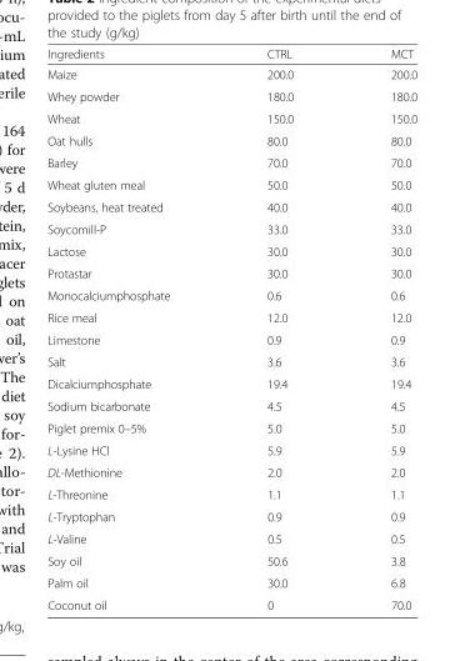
<table><thead><tr><td>Ingredients</td><td>CTRL</td><td>MCT</td></tr></thead><tbody><tr><td>Maize</td><td>200.0</td><td>200.0</td></tr><tr><td>Whey powder</td><td>180.0</td><td>180.0</td></tr><tr><td>Wheat</td><td>150.0</td><td>150.0</td></tr><tr><td>Oat hulls</td><td>80.0</td><td>80.0</td></tr><tr><td>Barley</td><td>70.0</td><td>70.0</td></tr><tr><td>Wheat gluten meal</td><td>50.0</td><td>50.0</td></tr><tr><td>Soybeans, heat treated</td><td>40.0</td><td>40.0</td></tr><tr><td>Soycomill-P</td><td>33.0</td><td>33.0</td></tr><tr><td>Lactose</td><td>30.0</td><td>30.0</td></tr><tr><td>Protastar</td><td>30.0</td><td>30.0</td></tr><tr><td>Monocalciumphosphate</td><td>0.6</td><td>0.6</td></tr><tr><td>Rice meal</td><td>12.0</td><td>12.0</td></tr><tr><td>Limestone</td><td>0.9</td><td>0.9</td></tr><tr><td>Salt</td><td>3.6</td><td>3.6</td></tr><tr><td>Dicalciumphosphate</td><td>19.4</td><td>19.4</td></tr><tr><td>Sodium bicarbonate</td><td>4.5</td><td>4.5</td></tr><tr><td>Piglet premix 0–5%</td><td>5.0</td><td>5.0</td></tr><tr><td>L-Lysine HCl</td><td>5.9</td><td>5.9</td></tr><tr><td>DL-Methionine</td><td>2.0</td><td>2.0</td></tr><tr><td>L-Threonine</td><td>1.1</td><td>1.1</td></tr><tr><td>L-Tryptophan</td><td>0.9</td><td>0.9</td></tr><tr><td>L-Valine</td><td>0.5</td><td>0.5</td></tr><tr><td>Soy oil</td><td>50.6</td><td>3.8</td></tr><tr><td>Palm oil</td><td>30.0</td><td>6.8</td></tr><tr><td>Coconut oil</td><td>0</td><td>70.0</td></tr></tbody></table>